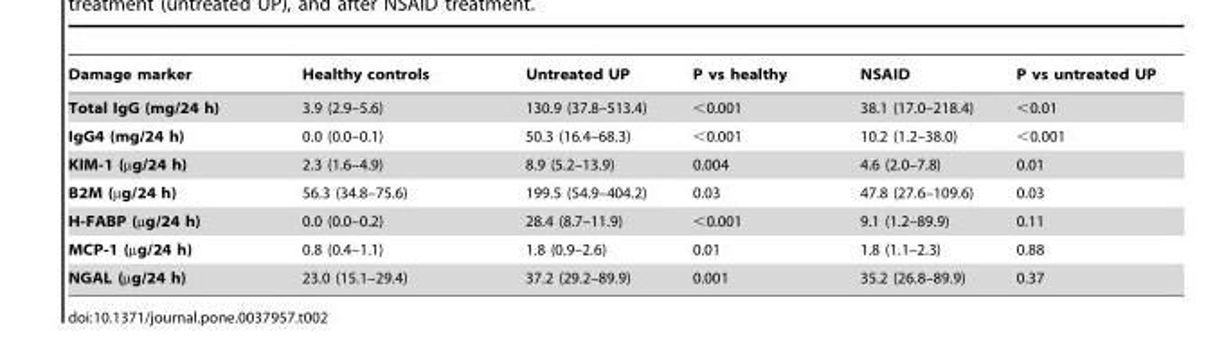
<table><thead><tr><td>Damage marker</td><td>Healthy controls</td><td>Untreated UP</td><td>P vs healthy</td><td>NSAID</td><td>P vs untreated UP</td></tr></thead><tbody><tr><td>Total IgG (mg/24 h)</td><td>3.9 (2.9–5.6)</td><td>130.9 (37.8–513.4)</td><td>&lt;0.001</td><td>38.1 (17.0–218.4)</td><td>&lt;0.01</td></tr><tr><td>IgG4 (mg/24 h)</td><td>0.0 (0.0–0.1)</td><td>50.3 (16.4–68.3)</td><td>&lt;0.001</td><td>10.2 (1.2–38.0)</td><td>&lt;0.001</td></tr><tr><td>KIM-1 (µg/24 h)</td><td>2.3 (1.6–4.9)</td><td>8.9 (5.2–13.9)</td><td>0.004</td><td>4.6 (2.0–7.8)</td><td>0.01</td></tr><tr><td>B2M (µg/24 h)</td><td>56.3 (34.8–75.6)</td><td>199.5 (54.9–404.2)</td><td>0.03</td><td>47.8 (27.6–109.6)</td><td>0.03</td></tr><tr><td>H-FABP (µg/24 h)</td><td>0.0 (0.0–0.2)</td><td>28.4 (8.7–11.9)</td><td>&lt;0.001</td><td>9.1 (1.2–89.9)</td><td>0.11</td></tr><tr><td>MCP-1 (µg/24 h)</td><td>0.8 (0.4–1.1)</td><td>1.8 (0.9–2.6)</td><td>0.01</td><td>1.8 (1.1–2.3)</td><td>0.88</td></tr><tr><td>NGAL (µg/24 h)</td><td>23.0 (15.1–29.4)</td><td>37.2 (29.2–89.9)</td><td>0.001</td><td>35.2 (26.8–89.9)</td><td>0.37</td></tr></tbody></table>